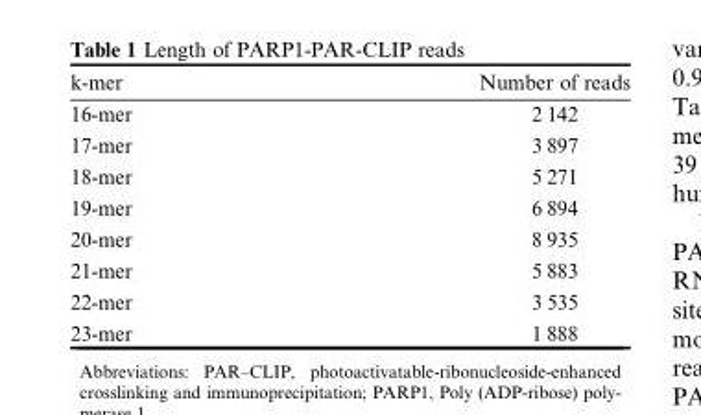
<table><thead><tr><td>k-mer</td><td>Number of reads</td></tr></thead><tbody><tr><td>16-mer</td><td>2 142</td></tr><tr><td>17-mer</td><td>3 897</td></tr><tr><td>18-mer</td><td>5 271</td></tr><tr><td>19-mer</td><td>6 894</td></tr><tr><td>20-mer</td><td>8 935</td></tr><tr><td>21-mer</td><td>5 883</td></tr><tr><td>22-mer</td><td>3 535</td></tr><tr><td>23-mer</td><td>1 888</td></tr></tbody></table>